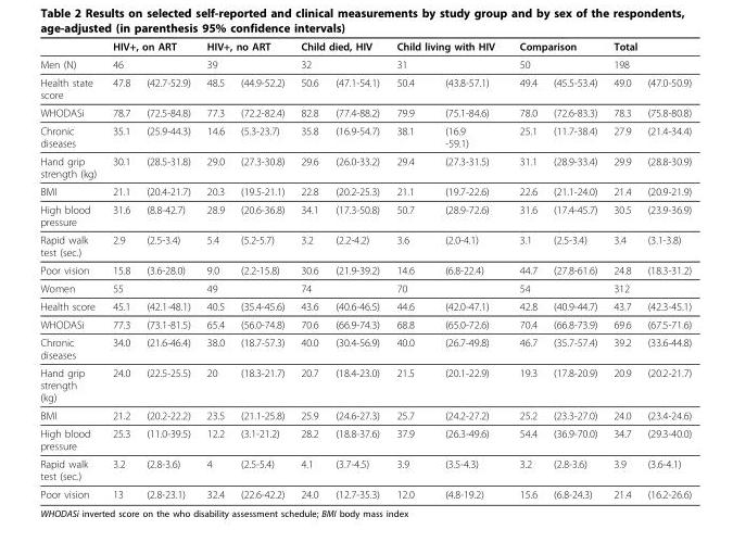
<table><thead><tr><td rowspan="2">Men (N)</td><td colspan="2">HIV+, on ART</td><td colspan="2">HIV+, no ART</td><td colspan="2">Child died, HIV</td><td colspan="2">Child living with HIV</td><td colspan="2">Comparison</td><td colspan="2">Total</td></tr><tr><td>46</td><td></td><td>39</td><td></td><td>32</td><td></td><td>31</td><td></td><td>50</td><td></td><td>198</td><td></td></tr></thead><tbody><tr><td>Health state score</td><td>47.8</td><td>(42.7-52.9)</td><td>48.5</td><td>(44.9-52.2)</td><td>50.6</td><td>(47.1-54.1)</td><td>50.4</td><td>(43.8-57.1)</td><td>49.4</td><td>(45.5-53.4)</td><td>49.0</td><td>(47.0-50.9)</td></tr><tr><td>WHODASi</td><td>78.7</td><td>(72.5-84.8)</td><td>77.3</td><td>(72.2-82.4)</td><td>82.8</td><td>(77.4-88.2)</td><td>79.9</td><td>(75.1-84.6)</td><td>78.0</td><td>(72.6-83.3)</td><td>78.3</td><td>(75.8-80.8)</td></tr><tr><td>Chronic diseases</td><td>35.1</td><td>(25.9-44.3)</td><td>14.6</td><td>(5.3-23.7)</td><td>35.8</td><td>(16.9-54.7)</td><td>38.1</td><td>(16.9 -59.1)</td><td>25.1</td><td>(11.7-38.4)</td><td>27.9</td><td>(21.4-34.4)</td></tr><tr><td>Hand grip strength (kg)</td><td>30.1</td><td>(28.5-31.8)</td><td>29.0</td><td>(27.3-30.8)</td><td>29.6</td><td>(26.0-33.2)</td><td>29.4</td><td>(27.3-31.5)</td><td>31.1</td><td>(28.9-33.4)</td><td>29.9</td><td>(28.8-30.9)</td></tr><tr><td>BMI</td><td>21.1</td><td>(20.4-21.7)</td><td>20.3</td><td>(19.5-21.1)</td><td>22.8</td><td>(20.2-25.3)</td><td>21.1</td><td>(19.7-22.6)</td><td>22.6</td><td>(21.1-24.0)</td><td>21.4</td><td>(20.9-21.9)</td></tr><tr><td>High blood pressure</td><td>31.6</td><td>(8.8-42.7)</td><td>28.9</td><td>(20.6-36.8)</td><td>34.1</td><td>(17.3-50.8)</td><td>50.7</td><td>(28.9-72.6)</td><td>31.6</td><td>(17.4-45.7)</td><td>30.5</td><td>(23.9-36.9)</td></tr><tr><td>Rapid walk test (sec.)</td><td>2.9</td><td>(2.5-3.4)</td><td>5.4</td><td>(5.2-5.7)</td><td>3.2</td><td>(2.2-4.2)</td><td>3.6</td><td>(2.0-4.1)</td><td>3.1</td><td>(2.5-3.4)</td><td>3.4</td><td>(3.1-3.8)</td></tr><tr><td>Poor vision</td><td>15.8</td><td>(3.6-28.0)</td><td>9.0</td><td>(2.2-15.8)</td><td>30.6</td><td>(21.9-39.2)</td><td>14.6</td><td>(6.8-22.4)</td><td>44.7</td><td>(27.8-61.6)</td><td>24.8</td><td>(18.3-31.2)</td></tr><tr><td>Women</td><td>55</td><td></td><td>49</td><td></td><td>74</td><td></td><td>70</td><td></td><td>54</td><td></td><td>312</td><td></td></tr><tr><td>Health score</td><td>45.1</td><td>(42.1-48.1)</td><td>40.5</td><td>(35.4-45.6)</td><td>43.6</td><td>(40.6-46.5)</td><td>44.6</td><td>(42.0-47.1)</td><td>42.8</td><td>(40.9-44.7)</td><td>43.7</td><td>(42.3-45.1)</td></tr><tr><td>WHODASi</td><td>77.3</td><td>(73.1-81.5)</td><td>65.4</td><td>(56.0-74.8)</td><td>70.6</td><td>(66.9-74.3)</td><td>68.8</td><td>(65.0-72.6)</td><td>70.4</td><td>(66.8-73.9)</td><td>69.6</td><td>(67.5-71.6)</td></tr><tr><td>Chronic diseases</td><td>34.0</td><td>(21.6-46.4)</td><td>38.0</td><td>(18.7-57.3)</td><td>40.0</td><td>(30.4-56.9)</td><td>40.0</td><td>(26.7-49.8)</td><td>46.7</td><td>(35.7-57.4)</td><td>39.2</td><td>(33.6-44.8)</td></tr><tr><td>Hand grip strength (kg)</td><td>24.0</td><td>(22.5-25.5)</td><td>20</td><td>(18.3-21.7)</td><td>20.7</td><td>(18.4-23.0)</td><td>21.5</td><td>(20.1-22.9)</td><td>19.3</td><td>(17.8-20.9)</td><td>20.9</td><td>(20.2-21.7)</td></tr><tr><td>BMI</td><td>21.2</td><td>(20.2-22.2)</td><td>23.5</td><td>(21.1-25.8)</td><td>25.9</td><td>(24.6-27.3)</td><td>25.7</td><td>(24.2-27.2)</td><td>25.2</td><td>(23.3-27.0)</td><td>24.0</td><td>(23.4-24.6)</td></tr><tr><td>High blood pressure</td><td>25.3</td><td>(11.0-39.5)</td><td>12.2</td><td>(3.1-21.2)</td><td>28.2</td><td>(18.8-37.6)</td><td>37.9</td><td>(26.3-49.6)</td><td>54.4</td><td>(36.9-70.0)</td><td>34.7</td><td>(29.3-40.0)</td></tr><tr><td>Rapid walk test (sec.)</td><td>3.2</td><td>(2.8-3.6)</td><td>4</td><td>(2.5-5.4)</td><td>4.1</td><td>(3.7-4.5)</td><td>3.9</td><td>(3.5-4.3)</td><td>3.2</td><td>(2.8-3.6)</td><td>3.9</td><td>(3.6-4.1)</td></tr><tr><td>Poor vision</td><td>13</td><td>(2.8-23.1)</td><td>32.4</td><td>(22.6-42.2)</td><td>24.0</td><td>(12.7-35.3)</td><td>12.0</td><td>(4.8-19.2)</td><td>15.6</td><td>(6.8-24.3)</td><td>21.4</td><td>(16.2-26.6)</td></tr></tbody></table>